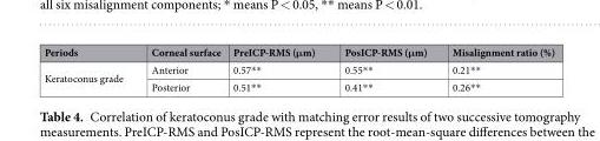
<table><thead><tr><td>Periods</td><td>Corneal surface</td><td>PreICP-RMS (μm)</td><td>PosICP-RMS (μm)</td><td>Misalignment ratio (%)</td></tr></thead><tbody><tr><td rowspan="2">Keratoconus grade</td><td>Anterior</td><td>0.57**</td><td>0.55**</td><td>0.21**</td></tr><tr><td>Posterior</td><td>0.51**</td><td>0.41**</td><td>0.26**</td></tr></tbody></table>